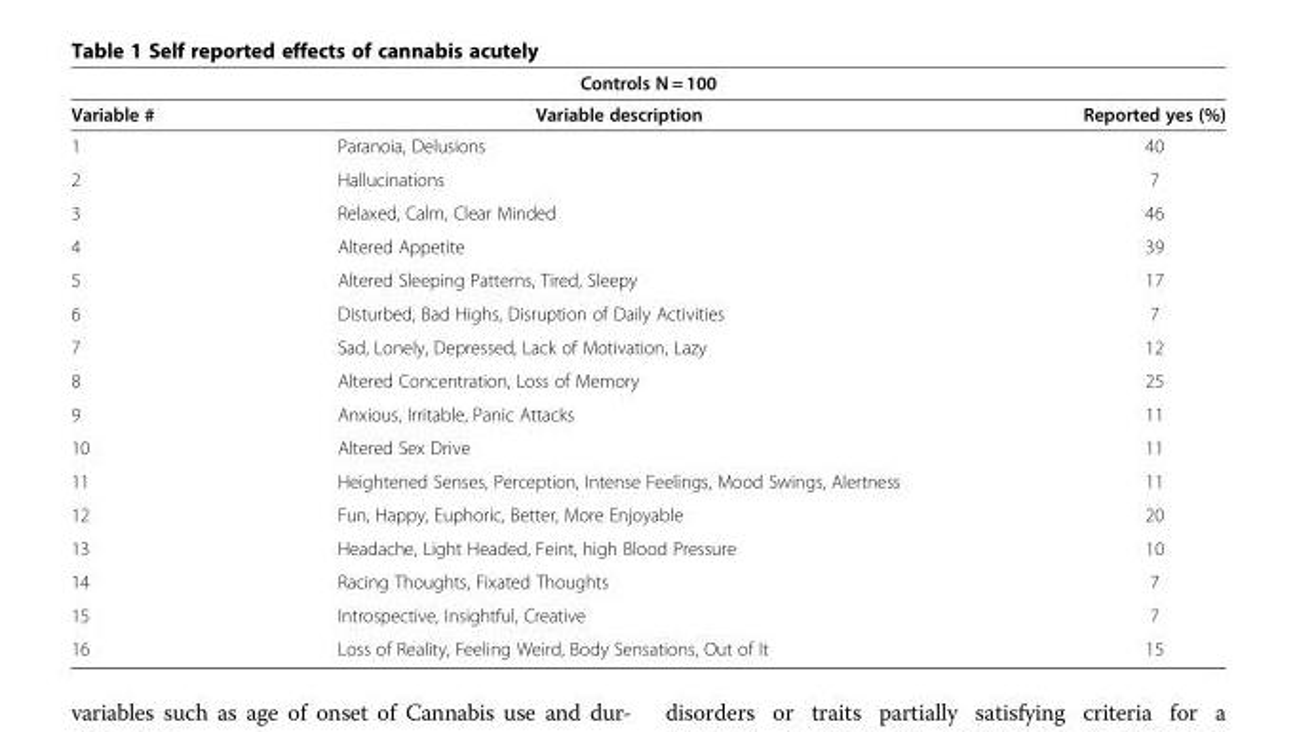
<table><thead><tr><td colspan="3">Controls N = 100</td></tr><tr><td>Variable #</td><td>Variable description</td><td>Reported yes (%)</td></tr></thead><tbody><tr><td>1</td><td>Paranoia, Delusions</td><td>40</td></tr><tr><td>2</td><td>Hallucinations</td><td>7</td></tr><tr><td>3</td><td>Relaxed, Calm, Clear Minded</td><td>46</td></tr><tr><td>4</td><td>Altered Appetite</td><td>39</td></tr><tr><td>5</td><td>Altered Sleeping Patterns, Tired, Sleepy</td><td>17</td></tr><tr><td>6</td><td>Disturbed, Bad Highs, Disruption of Daily Activities</td><td>7</td></tr><tr><td>7</td><td>Sad, Lonely, Depressed, Lack of Motivation, Lazy</td><td>12</td></tr><tr><td>8</td><td>Altered Concentration, Loss of Memory</td><td>25</td></tr><tr><td>9</td><td>Anxious, Irritable, Panic Attacks</td><td>11</td></tr><tr><td>10</td><td>Altered Sex Drive</td><td>11</td></tr><tr><td>11</td><td>Heightened Senses, Perception, Intense Feelings, Mood Swings, Alertness</td><td>11</td></tr><tr><td>12</td><td>Fun, Happy, Euphoric, Better, More Enjoyable</td><td>20</td></tr><tr><td>13</td><td>Headache, Light Headed, Feint, high Blood Pressure</td><td>10</td></tr><tr><td>14</td><td>Racing Thoughts, Fixated Thoughts</td><td>7</td></tr><tr><td>15</td><td>Introspective, Insightful, Creative</td><td>7</td></tr><tr><td>16</td><td>Loss of Reality, Feeling Weird, Body Sensations, Out of It</td><td>15</td></tr></tbody></table>